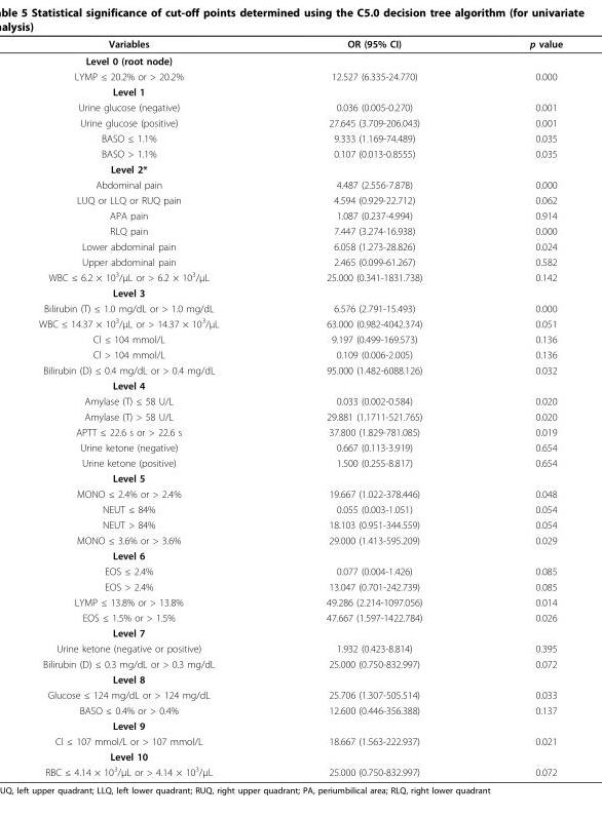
<table><thead><tr><td>Variables</td><td>OR (95% CI)</td><td>p value</td></tr></thead><tbody><tr><td colspan="3">Level 0 (root node)</td></tr><tr><td>LYMP ≤ 20.2% or &gt; 20.2%</td><td>12.527 (6.335-24.770)</td><td>0.000</td></tr><tr><td colspan="3">Level 1</td></tr><tr><td>Urine glucose (negative)</td><td>0.036 (0.005-0.270)</td><td>0.001</td></tr><tr><td>Urine glucose (positive)</td><td>27.645 (3.709-206.043)</td><td>0.001</td></tr><tr><td>BASO ≤ 1.1%</td><td>9.333 (1.169-74.489)</td><td>0.035</td></tr><tr><td>BASO &gt; 1.1%</td><td>0.107 (0.013-0.8555)</td><td>0.035</td></tr><tr><td colspan="3">Level 2*</td></tr><tr><td>Abdominal pain</td><td>4.487 (2.556-7.878)</td><td>0.000</td></tr><tr><td>LUQ or LLQ or RUQ pain</td><td>4.594 (0.929-22.712)</td><td>0.062</td></tr><tr><td>APA pain</td><td>1.087 (0.237-4.994)</td><td>0.914</td></tr><tr><td>RLQ pain</td><td>7.447 (3.274-16.938)</td><td>0.000</td></tr><tr><td>Lower abdominal pain</td><td>6.058 (1.273-28.826)</td><td>0.024</td></tr><tr><td>Upper abdominal pain</td><td>2.465 (0.099-61.267)</td><td>0.582</td></tr><tr><td>WBC ≤ 6.2 × 10<sup>3</sup>/μL or &gt; 6.2 × 10<sup>3</sup>/μL</td><td>25.000 (0.341-1831.738)</td><td>0.142</td></tr><tr><td colspan="3">Level 3</td></tr><tr><td>Bilirubin (T) ≤ 1.0 mg/dL or &gt; 1.0 mg/dL</td><td>6.576 (2.791-15.493)</td><td>0.000</td></tr><tr><td>WBC ≤ 14.37 × 10<sup>3</sup>/μL or &gt; 14.37 × 10<sup>3</sup>/μL</td><td>63.000 (0.982-4042.374)</td><td>0.051</td></tr><tr><td>Cl ≤ 104 mmol/L</td><td>9.197 (0.499-169.573)</td><td>0.136</td></tr><tr><td>Cl &gt; 104 mmol/L</td><td>0.109 (0.006-2.005)</td><td>0.136</td></tr><tr><td>Bilirubin (D) ≤ 0.4 mg/dL or &gt; 0.4 mg/dL</td><td>95.000 (1.482-6088.126)</td><td>0.032</td></tr><tr><td colspan="3">Level 4</td></tr><tr><td>Amylase (T) ≤ 58 U/L</td><td>0.033 (0.002-0.584)</td><td>0.020</td></tr><tr><td>Amylase (T) &gt; 58 U/L</td><td>29.881 (1.1711-521.765)</td><td>0.020</td></tr><tr><td>APTT ≤ 22.6 s or &gt; 22.6 s</td><td>37.800 (1.829-781.085)</td><td>0.019</td></tr><tr><td>Urine ketone (negative)</td><td>0.667 (0.113-3.919)</td><td>0.654</td></tr><tr><td>Urine ketone (positive)</td><td>1.500 (0.255-8.817)</td><td>0.654</td></tr><tr><td colspan="3">Level 5</td></tr><tr><td>MONO ≤ 2.4% or &gt; 2.4%</td><td>19.667 (1.022-378.446)</td><td>0.048</td></tr><tr><td>NEUT ≤ 84%</td><td>0.055 (0.003-1.051)</td><td>0.054</td></tr><tr><td>NEUT &gt; 84%</td><td>18.103 (0.951-344.559)</td><td>0.054</td></tr><tr><td>MONO ≤ 3.6% or &gt; 3.6%</td><td>29.000 (1.413-595.209)</td><td>0.029</td></tr><tr><td colspan="3">Level 6</td></tr><tr><td>EOS ≤ 2.4%</td><td>0.077 (0.004-1.426)</td><td>0.085</td></tr><tr><td>EOS &gt; 2.4%</td><td>13.047 (0.701-242.739)</td><td>0.085</td></tr><tr><td>LYMP ≤ 13.8% or &gt; 13.8%</td><td>49.286 (2.214-1097.056)</td><td>0.014</td></tr><tr><td>EOS ≤ 1.5% or &gt; 1.5%</td><td>47.667 (1.597-1422.784)</td><td>0.026</td></tr><tr><td colspan="3">Level 7</td></tr><tr><td>Urine ketone (negative or positive)</td><td>1.932 (0.423-8.814)</td><td>0.395</td></tr><tr><td>Bilirubin (D) ≤ 0.3 mg/dL or &gt; 0.3 mg/dL</td><td>25.000 (0.750-832.997)</td><td>0.072</td></tr><tr><td colspan="3">Level 8</td></tr><tr><td>Glucose ≤ 124 mg/dL or &gt; 124 mg/dL</td><td>25.706 (1.307-505.514)</td><td>0.033</td></tr><tr><td>BASO ≤ 0.4% or &gt; 0.4%</td><td>12.600 (0.446-356.388)</td><td>0.137</td></tr><tr><td colspan="3">Level 9</td></tr><tr><td>Cl ≤ 107 mmol/L or &gt; 107 mmol/L</td><td>18.667 (1.563-222.937)</td><td>0.021</td></tr><tr><td colspan="3">Level 10</td></tr><tr><td>RBC ≤ 4.14 × 10<sup>3</sup>/μL or &gt; 4.14 × 10<sup>3</sup>/μL</td><td>25.000 (0.750-832.997)</td><td>0.072</td></tr></tbody></table>